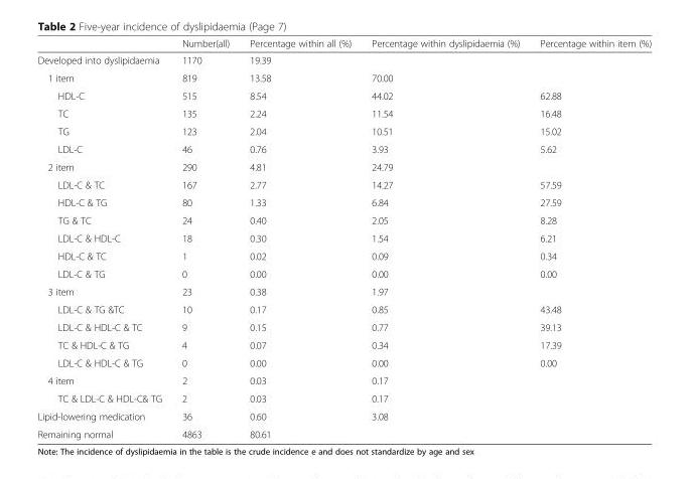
<table><thead><tr><td></td><td>Number(all)</td><td>Percentage within all (%)</td><td>Percentage within dyslipidaemia (%)</td><td>Percentage within item (%)</td></tr></thead><tbody><tr><td>Developed into dyslipidaemia</td><td>1170</td><td>19.39</td><td></td><td></td></tr><tr><td>1 item</td><td>819</td><td>13.58</td><td>70.00</td><td></td></tr><tr><td>HDL-C</td><td>515</td><td>8.54</td><td>44.02</td><td>62.88</td></tr><tr><td>TC</td><td>135</td><td>2.24</td><td>11.54</td><td>16.48</td></tr><tr><td>TG</td><td>123</td><td>2.04</td><td>10.51</td><td>15.02</td></tr><tr><td>LDL-C</td><td>46</td><td>0.76</td><td>3.93</td><td>5.62</td></tr><tr><td>2 item</td><td>290</td><td>4.81</td><td>24.79</td><td></td></tr><tr><td>LDL-C &amp; TC</td><td>167</td><td>2.77</td><td>14.27</td><td>57.59</td></tr><tr><td>HDL-C &amp; TG</td><td>80</td><td>1.33</td><td>6.84</td><td>27.59</td></tr><tr><td>TG &amp; TC</td><td>24</td><td>0.40</td><td>2.05</td><td>8.28</td></tr><tr><td>LDL-C &amp; HDL-C</td><td>18</td><td>0.30</td><td>1.54</td><td>6.21</td></tr><tr><td>HDL-C &amp; TC</td><td>1</td><td>0.02</td><td>0.09</td><td>0.34</td></tr><tr><td>LDL-C &amp; TG</td><td>0</td><td>0.00</td><td>0.00</td><td>0.00</td></tr><tr><td>3 item</td><td>23</td><td>0.38</td><td>1.97</td><td></td></tr><tr><td>LDL-C &amp; TG &amp;TC</td><td>10</td><td>0.17</td><td>0.85</td><td>43.48</td></tr><tr><td>LDL-C &amp; HDL-C &amp; TC</td><td>9</td><td>0.15</td><td>0.77</td><td>39.13</td></tr><tr><td>TC &amp; HDL-C &amp; TG</td><td>4</td><td>0.07</td><td>0.34</td><td>17.39</td></tr><tr><td>LDL-C &amp; HDL-C &amp; TG</td><td>0</td><td>0.00</td><td>0.00</td><td>0.00</td></tr><tr><td>4 item</td><td>2</td><td>0.03</td><td>0.17</td><td></td></tr><tr><td>TC &amp; LDL-C &amp; HDL-C&amp; TG</td><td>2</td><td>0.03</td><td>0.17</td><td></td></tr><tr><td>Lipid-lowering medication</td><td>36</td><td>0.60</td><td>3.08</td><td></td></tr><tr><td>Remaining normal</td><td>4863</td><td>80.61</td><td></td><td></td></tr></tbody></table>